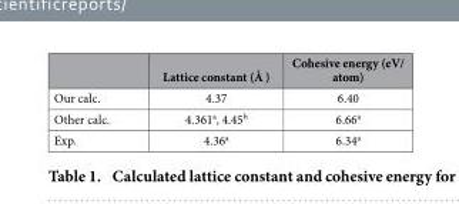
<table><thead><tr><td></td><td>Lattice constant (Å )</td><td>Cohesive energy (eV/ atom)</td></tr></thead><tbody><tr><td>Our calc.</td><td>4.37</td><td>6.40</td></tr><tr><td>Other calc.</td><td>4.361<sup>a</sup>, 4.45<sup>b</sup></td><td>6.66<sup>a</sup></td></tr><tr><td>Exp.</td><td>4.36<sup>a</sup></td><td>6.34<sup>a</sup></td></tr></tbody></table>